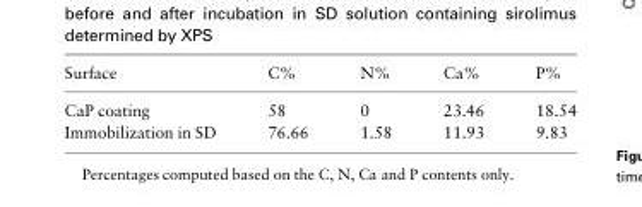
<table><thead><tr><td>Surface</td><td>C%</td><td>N%</td><td>Ca%</td><td>P%</td></tr></thead><tbody><tr><td>CaP coating</td><td>58</td><td>0</td><td>23.46</td><td>18.54</td></tr><tr><td>Immobilization in SD</td><td>76.66</td><td>1.58</td><td>11.93</td><td>9.83</td></tr></tbody></table>